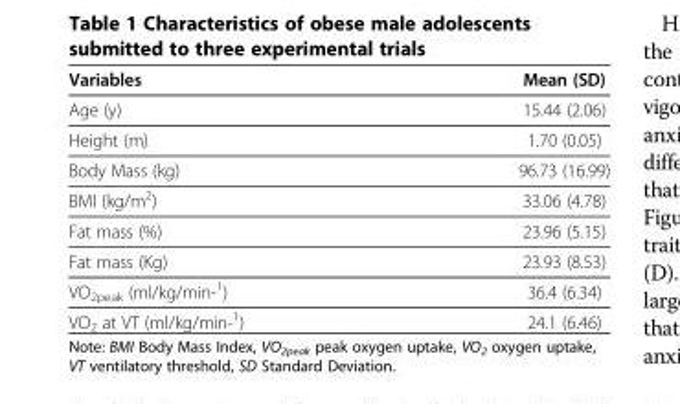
<table><thead><tr><td>Variables</td><td>Mean (SD)</td></tr></thead><tbody><tr><td>Age (y)</td><td>15.44 (2.06)</td></tr><tr><td>Height (m)</td><td>1.70 (0.05)</td></tr><tr><td>Body Mass (kg)</td><td>96.73 (16.99)</td></tr><tr><td>BMI (kg/m<sup>2</sup>)</td><td>33.06 (4.78)</td></tr><tr><td>Fat mass (%)</td><td>23.96 (5.15)</td></tr><tr><td>Fat mass (Kg)</td><td>23.93 (8.53)</td></tr><tr><td>VO<sub>2peak</sub> (ml/kg/min-<sup>1</sup>)</td><td>36.4 (6.34)</td></tr><tr><td>VO<sub>2</sub> at VT (ml/kg/min-<sup>1</sup>)</td><td>24.1 (6.46)</td></tr></tbody></table>